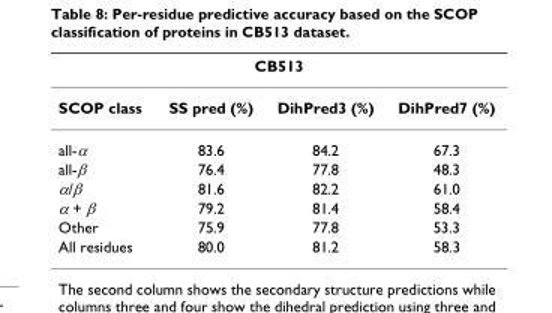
<table><thead><tr><td colspan="4">CB513</td></tr><tr><td>SCOP class</td><td>SS pred (%)</td><td>DihPred3 (%)</td><td>DihPred7 (%)</td></tr></thead><tbody><tr><td>all-α</td><td>83.6</td><td>84.2</td><td>67.3</td></tr><tr><td>all-β</td><td>76.4</td><td>77.8</td><td>48.3</td></tr><tr><td>α/β</td><td>81.6</td><td>82.2</td><td>61.0</td></tr><tr><td>α + β</td><td>79.2</td><td>81.4</td><td>58.4</td></tr><tr><td>Other</td><td>75.9</td><td>77.8</td><td>53.3</td></tr><tr><td>All residues</td><td>80.0</td><td>81.2</td><td>58.3</td></tr></tbody></table>